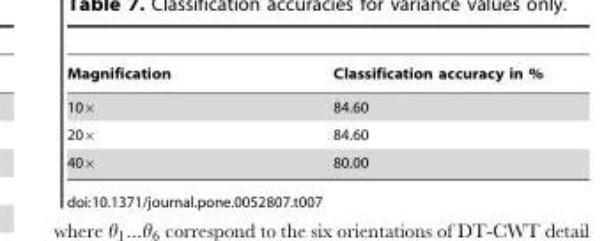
<table><thead><tr><td>Magnification</td><td>Classification accuracy in %</td></tr></thead><tbody><tr><td>10×</td><td>84.60</td></tr><tr><td>20×</td><td>84.60</td></tr><tr><td>40×</td><td>80.00</td></tr></tbody></table>